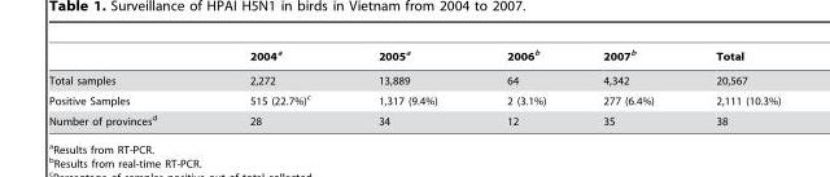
<table><thead><tr><td></td><td>2004<sup>a</sup></td><td>2005<sup>a</sup></td><td>2006<sup>b</sup></td><td>2007<sup>b</sup></td><td>Total</td></tr></thead><tbody><tr><td>Total samples</td><td>2,272</td><td>13,889</td><td>64</td><td>4,342</td><td>20,567</td></tr><tr><td>Positive Samples</td><td>515 (22.7%)<sup>c</sup></td><td>1,317 (9.4%)</td><td>2 (3.1%)</td><td>277 (6.4%)</td><td>2,111 (10.3%)</td></tr><tr><td>Number of provinces<sup>d</sup></td><td>28</td><td>34</td><td>12</td><td>35</td><td>38</td></tr></tbody></table>